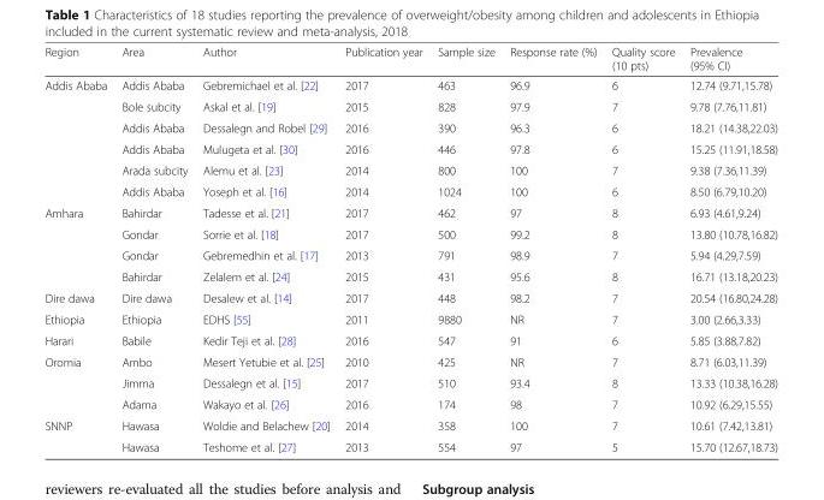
<table><thead><tr><td>Region</td><td>Area</td><td>Author</td><td>Publication year</td><td>Sample size</td><td>Response rate (%)</td><td>Quality score (10 pts)</td><td>Prevalence (95% CI)</td></tr></thead><tbody><tr><td rowspan="6">Addis Ababa</td><td>Addis Ababa</td><td>Gebremichael et al. [22]</td><td>2017</td><td>463</td><td>96.9</td><td>6</td><td>12.74 (9.71,15.78)</td></tr><tr><td>Bole subcity</td><td>Askal et al. [19]</td><td>2015</td><td>828</td><td>97.9</td><td>7</td><td>9.78 (7.76,11.81)</td></tr><tr><td>Addis Ababa</td><td>Dessalegn and Robel [29]</td><td>2016</td><td>390</td><td>96.3</td><td>6</td><td>18.21 (14.38,22.03)</td></tr><tr><td>Addis Ababa</td><td>Mulugeta et al. [30]</td><td>2016</td><td>446</td><td>97.8</td><td>6</td><td>15.25 (11.91,18.58)</td></tr><tr><td>Arada subcity</td><td>Alemu et al. [23]</td><td>2014</td><td>800</td><td>100</td><td>7</td><td>9.38 (7.36,11.39)</td></tr><tr><td>Addis Ababa</td><td>Yoseph et al. [16]</td><td>2014</td><td>1024</td><td>100</td><td>6</td><td>8.50 (6.79,10.20)</td></tr><tr><td rowspan="4">Amhara</td><td>Bahirdar</td><td>Tadesse et al. [21]</td><td>2017</td><td>462</td><td>97</td><td>8</td><td>6.93 (4.61,9.24)</td></tr><tr><td>Gondar</td><td>Sorrie et al. [18]</td><td>2017</td><td>500</td><td>99.2</td><td>8</td><td>13.80 (10.78,16.82)</td></tr><tr><td>Gondar</td><td>Gebremedhin et al. [17]</td><td>2013</td><td>791</td><td>98.9</td><td>7</td><td>5.94 (4.29,7.59)</td></tr><tr><td>Bahirdar</td><td>Zelalem et al. [24]</td><td>2015</td><td>431</td><td>95.6</td><td>8</td><td>16.71 (13.18,20.23)</td></tr><tr><td>Dire dawa</td><td>Dire dawa</td><td>Desalew et al. [14]</td><td>2017</td><td>448</td><td>98.2</td><td>7</td><td>20.54 (16.80,24.28)</td></tr><tr><td>Ethiopia</td><td>Ethiopia</td><td>EDHS [55]</td><td>2011</td><td>9880</td><td>NR</td><td>7</td><td>3.00 (2.66,3.33)</td></tr><tr><td>Harari</td><td>Babile</td><td>Kedir Teji et al. [28]</td><td>2016</td><td>547</td><td>91</td><td>6</td><td>5.85 (3.88,7.82)</td></tr><tr><td rowspan="3">Oromia</td><td>Ambo</td><td>Mesert Yetubie et al. [25]</td><td>2010</td><td>425</td><td>NR</td><td>7</td><td>8.71 (6.03,11.39)</td></tr><tr><td>Jimma</td><td>Dessalegn et al. [15]</td><td>2017</td><td>510</td><td>93.4</td><td>8</td><td>13.33 (10.38,16.28)</td></tr><tr><td>Adama</td><td>Wakayo et al. [26]</td><td>2016</td><td>174</td><td>98</td><td>7</td><td>10.92 (6.29,15.55)</td></tr><tr><td rowspan="2">SNNP</td><td>Hawasa</td><td>Woldie and Belachew [20]</td><td>2014</td><td>358</td><td>100</td><td>7</td><td>10.61 (7.42,13.81)</td></tr><tr><td>Hawasa</td><td>Teshome et al. [27]</td><td>2013</td><td>554</td><td>97</td><td>5</td><td>15.70 (12.67,18.73)</td></tr></tbody></table>